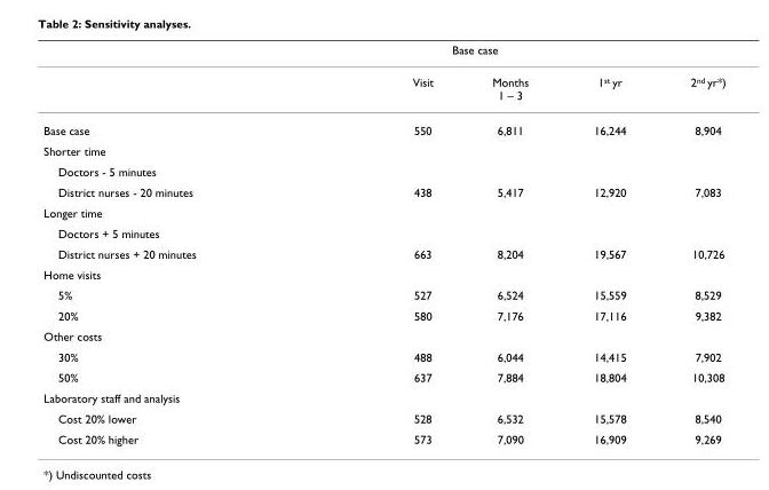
<table><thead><tr><td rowspan="2"></td><td colspan="2">Base case</td><td rowspan="2">1<sup>st</sup> yr</td><td rowspan="2">2<sup>nd</sup> yr*)</td></tr><tr><td>Visit</td><td>Months 1 – 3</td></tr></thead><tbody><tr><td>Base case</td><td>550</td><td>6,811</td><td>16,244</td><td>8,904</td></tr><tr><td colspan="5">Shorter time</td></tr><tr><td colspan="5">Doctors - 5 minutes</td></tr><tr><td>District nurses - 20 minutes</td><td>438</td><td>5,417</td><td>12,920</td><td>7,083</td></tr><tr><td colspan="5">Longer time</td></tr><tr><td colspan="5">Doctors + 5 minutes</td></tr><tr><td>District nurses + 20 minutes</td><td>663</td><td>8,204</td><td>19,567</td><td>10,726</td></tr><tr><td colspan="5">Home visits</td></tr><tr><td>5%</td><td>527</td><td>6,524</td><td>15,559</td><td>8,529</td></tr><tr><td>20%</td><td>580</td><td>7,176</td><td>17,116</td><td>9,382</td></tr><tr><td colspan="5">Other costs</td></tr><tr><td>30%</td><td>488</td><td>6,044</td><td>14,415</td><td>7,902</td></tr><tr><td>50%</td><td>637</td><td>7,884</td><td>18,804</td><td>10,308</td></tr><tr><td colspan="5">Laboratory staff and analysis</td></tr><tr><td>Cost 20% lower</td><td>528</td><td>6,532</td><td>15,578</td><td>8,540</td></tr><tr><td>Cost 20% higher</td><td>573</td><td>7,090</td><td>16,909</td><td>9,269</td></tr></tbody></table>